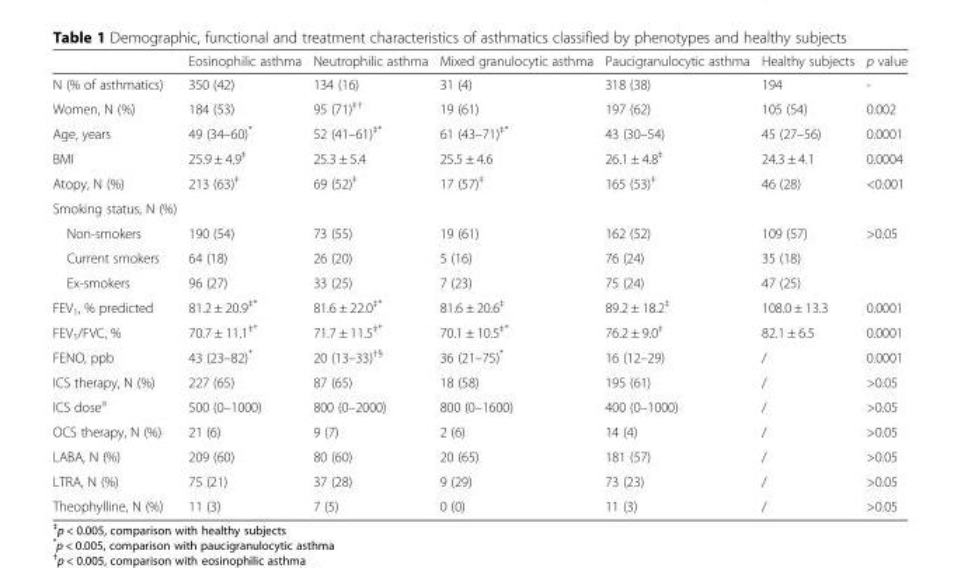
<table><thead><tr><td></td><td>Eosinophilic asthma</td><td>Neutrophilic asthma</td><td>Mixed granulocytic asthma</td><td>Paucigranulocytic asthma</td><td>Healthy subjects</td><td>p value</td></tr></thead><tbody><tr><td>N (% of asthmatics)</td><td>350 (42)</td><td>134 (16)</td><td>31 (4)</td><td>318 (38)</td><td>194</td><td>-</td></tr><tr><td>Women, N (%)</td><td>184 (53)</td><td>95 (71)<sup>‡†</sup></td><td>19 (61)</td><td>197 (62)</td><td>105 (54)</td><td>0.002</td></tr><tr><td>Age, years</td><td>49 (34–60)*</td><td>52 (41–61)<sup>‡*</sup></td><td>61 (43–71)<sup>‡*</sup></td><td>43 (30–54)</td><td>45 (27–56)</td><td>0.0001</td></tr><tr><td>BMI</td><td>25.9 ± 4.9<sup>‡</sup></td><td>25.3 ± 5.4</td><td>25.5 ± 4.6</td><td>26.1 ± 4.8<sup>‡</sup></td><td>24.3 ± 4.1</td><td>0.0004</td></tr><tr><td>Atopy, N (%)</td><td>213 (63)<sup>‡</sup></td><td>69 (52)<sup>‡</sup></td><td>17 (57)<sup>‡</sup></td><td>165 (53)<sup>‡</sup></td><td>46 (28)</td><td>&lt;0.001</td></tr><tr><td colspan="7">Smoking status, N (%)</td></tr><tr><td>Non-smokers</td><td>190 (54)</td><td>73 (55)</td><td>19 (61)</td><td>162 (52)</td><td>109 (57)</td><td>&gt;0.05</td></tr><tr><td>Current smokers</td><td>64 (18)</td><td>26 (20)</td><td>5 (16)</td><td>76 (24)</td><td>35 (18)</td><td></td></tr><tr><td>Ex-smokers</td><td>96 (27)</td><td>33 (25)</td><td>7 (23)</td><td>75 (24)</td><td>47 (25)</td><td></td></tr><tr><td>FEV<sub>1</sub>, % predicted</td><td>81.2 ± 20.9<sup>‡*</sup></td><td>81.6 ± 22.0<sup>‡*</sup></td><td>81.6 ± 20.6<sup>‡</sup></td><td>89.2 ± 18.2<sup>‡</sup></td><td>108.0 ± 13.3</td><td>0.0001</td></tr><tr><td>FEV<sub>1</sub>/FVC, %</td><td>70.7 ± 11.1<sup>‡*</sup></td><td>71.7 ± 11.5<sup>‡*</sup></td><td>70.1 ± 10.5<sup>‡*</sup></td><td>76.2 ± 9.0<sup>‡</sup></td><td>82.1 ± 6.5</td><td>0.0001</td></tr><tr><td>FENO, ppb</td><td>43 (23–82)*</td><td>20 (13–33)<sup>†§</sup></td><td>36 (21–75)*</td><td>16 (12–29)</td><td>/</td><td>0.0001</td></tr><tr><td>ICS therapy, N (%)</td><td>227 (65)</td><td>87 (65)</td><td>18 (58)</td><td>195 (61)</td><td>/</td><td>&gt;0.05</td></tr><tr><td>ICS dose<sup>a</sup></td><td>500 (0–1000)</td><td>800 (0–2000)</td><td>800 (0–1600)</td><td>400 (0–1000)</td><td>/</td><td>&gt;0.05</td></tr><tr><td>OCS therapy, N (%)</td><td>21 (6)</td><td>9 (7)</td><td>2 (6)</td><td>14 (4)</td><td>/</td><td>&gt;0.05</td></tr><tr><td>LABA, N (%)</td><td>209 (60)</td><td>80 (60)</td><td>20 (65)</td><td>181 (57)</td><td>/</td><td>&gt;0.05</td></tr><tr><td>LTRA, N (%)</td><td>75 (21)</td><td>37 (28)</td><td>9 (29)</td><td>73 (23)</td><td>/</td><td>&gt;0.05</td></tr><tr><td>Theophylline, N (%)</td><td>11 (3)</td><td>7 (5)</td><td>0 (0)</td><td>11 (3)</td><td>/</td><td>&gt;0.05</td></tr></tbody></table>